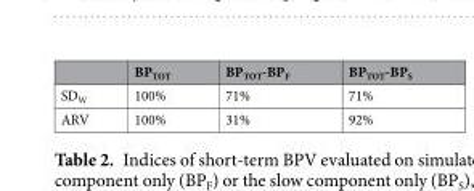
<table><thead><tr><td></td><td>BP<sub>TOT</sub></td><td>BP<sub>TOT</sub>-BP<sub>F</sub></td><td>BP<sub>TOT</sub>-BP<sub>S</sub></td></tr></thead><tbody><tr><td>SD<sub>W</sub></td><td>100%</td><td>71%</td><td>71%</td></tr><tr><td>ARV</td><td>100%</td><td>31%</td><td>92%</td></tr></tbody></table>